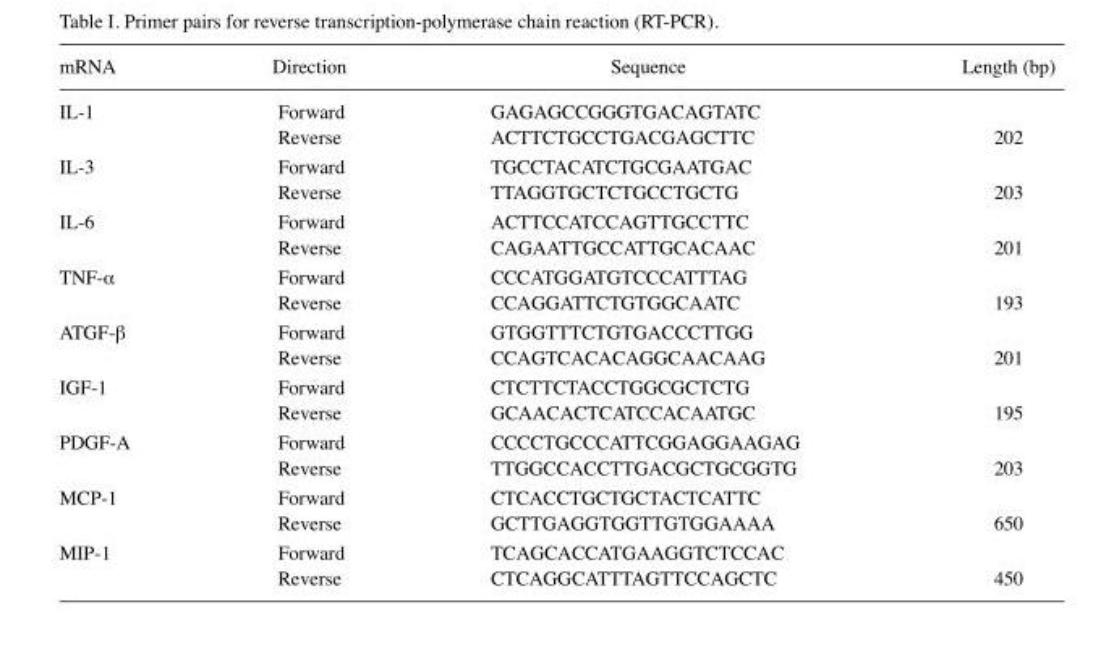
<table><thead><tr><td>mRNA</td><td>Direction</td><td>Sequence</td><td>Length (bp)</td></tr></thead><tbody><tr><td rowspan="2">IL-1</td><td>Forward</td><td>GAGAGCCGGGTGACAGTATC</td><td></td></tr><tr><td>Reverse</td><td>ACTTCTGCCTGACGAGCTTC</td><td>202</td></tr><tr><td rowspan="2">IL-3</td><td>Forward</td><td>TGCCTACATCTGCGAATGAC</td><td></td></tr><tr><td>Reverse</td><td>TTAGGTGCTCTGCCTGCTG</td><td>203</td></tr><tr><td rowspan="2">IL-6</td><td>Forward</td><td>ACTTCCATCCAGTTGCCTTC</td><td></td></tr><tr><td>Reverse</td><td>CAGAATTGCCATTGCACAAC</td><td>201</td></tr><tr><td rowspan="2">TNF-α</td><td>Forward</td><td>CCCATGGATGTCCCATTTAG</td><td></td></tr><tr><td>Reverse</td><td>CCAGGATTCTGTGGCAATC</td><td>193</td></tr><tr><td rowspan="2">ATGF-β</td><td>Forward</td><td>GTGGTTTCTGTGACCCTTGG</td><td></td></tr><tr><td>Reverse</td><td>CCAGTCACACAGGCAACAAG</td><td>201</td></tr><tr><td rowspan="2">IGF-1</td><td>Forward</td><td>CTCTTCTACCTGGCGCTCTG</td><td></td></tr><tr><td>Reverse</td><td>GCAACACTCATCCACAATGC</td><td>195</td></tr><tr><td rowspan="2">PDGF-A</td><td>Forward</td><td>CCCCTGCCCATTCGGAGGAAGAG</td><td></td></tr><tr><td>Reverse</td><td>TTGGCCACCTTGACGCTGCGGTG</td><td>203</td></tr><tr><td rowspan="2">MCP-1</td><td>Forward</td><td>CTCACCTGCTGCTACTCATTC</td><td></td></tr><tr><td>Reverse</td><td>GCTTGAGGTGGTTGTGGAAAA</td><td>650</td></tr><tr><td rowspan="2">MIP-1</td><td>Forward</td><td>TCAGCACCATGAAGGTCTCCAC</td><td></td></tr><tr><td>Reverse</td><td>CTCAGGCATTTAGTTCCAGCTC</td><td>450</td></tr></tbody></table>